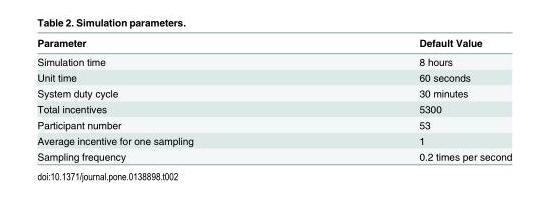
<table><thead><tr><td>Parameter</td><td>Default Value</td></tr></thead><tbody><tr><td>Simulation time</td><td>8 hours</td></tr><tr><td>Unit time</td><td>60 seconds</td></tr><tr><td>System duty cycle</td><td>30 minutes</td></tr><tr><td>Total incentives</td><td>5300</td></tr><tr><td>Participant number</td><td>53</td></tr><tr><td>Average incentive for one sampling</td><td>1</td></tr><tr><td>Sampling frequency</td><td>0.2 times per second</td></tr></tbody></table>